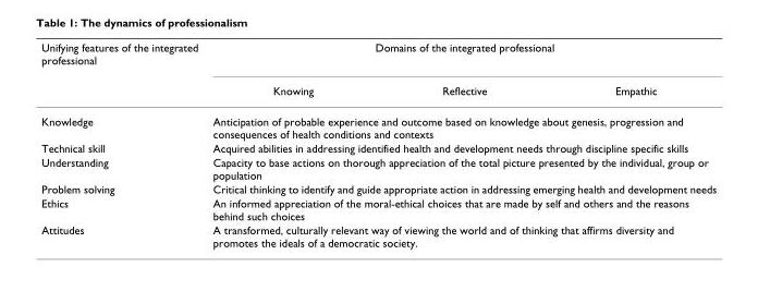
<table><thead><tr><td rowspan="2">Unifying features of the integrated professional</td><td colspan="3">Domains of the integrated professional</td></tr><tr><td>Knowing</td><td>Reflective</td><td>Empathic</td></tr></thead><tbody><tr><td>Knowledge</td><td colspan="3">Anticipation of probable experience and outcome based on knowledge about genesis, progression and consequences of health conditions and contexts</td></tr><tr><td>Technical skill</td><td colspan="3">Acquired abilities in addressing identified health and development needs through discipline specific skills</td></tr><tr><td>Understanding</td><td colspan="3">Capacity to base actions on thorough appreciation of the total picture presented by the individual, group or population</td></tr><tr><td>Problem solving</td><td colspan="3">Critical thinking to identify and guide appropriate action in addressing emerging health and development needs</td></tr><tr><td>Ethics</td><td colspan="3">An informed appreciation of the moral-ethical choices that are made by self and others and the reasons behind such choices</td></tr><tr><td>Attitudes</td><td colspan="3">A transformed, culturally relevant way of viewing the world and of thinking that affirms diversity and promotes the ideals of a democratic society.</td></tr></tbody></table>